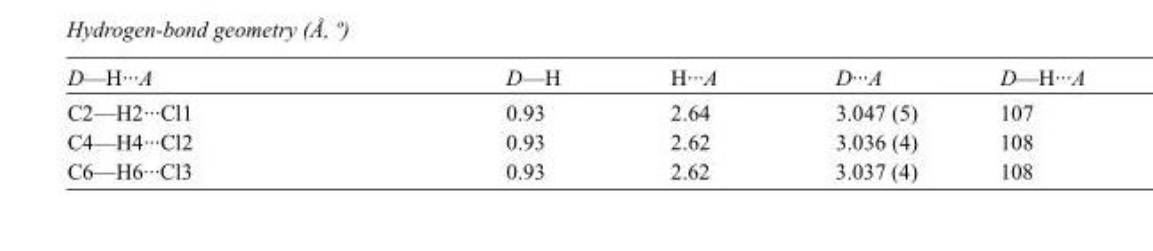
<table><tbody><tr><td>D—H···A</td><td>D—H</td><td>H···A</td><td>D···A</td><td>D—H···A</td></tr><tr><td>C2—H2···Cl1</td><td>0.93</td><td>2.64</td><td>3.047 (5)</td><td>107</td></tr><tr><td>C4—H4···Cl2</td><td>0.93</td><td>2.62</td><td>3.036 (4)</td><td>108</td></tr><tr><td>C6—H6···Cl3</td><td>0.93</td><td>2.62</td><td>3.037 (4)</td><td>108</td></tr></tbody></table>